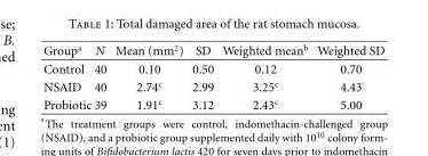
<table><thead><tr><td>Group<sup>a</sup></td><td>N</td><td>Mean (mm<sup>2</sup>)</td><td>SD</td><td>Weighted mean<sup>b</sup></td><td>Weighted SD</td></tr></thead><tbody><tr><td>Control</td><td>40</td><td>0.10</td><td>0.50</td><td>0.12</td><td>0.70</td></tr><tr><td>NSAID</td><td>40</td><td>2.74<sup>c</sup></td><td>2.99</td><td>3.25<sup>c</sup></td><td>4.43</td></tr><tr><td>Probiotic</td><td>39</td><td>1.91<sup>c</sup></td><td>3.12</td><td>2.43<sup>c</sup></td><td>5.00</td></tr></tbody></table>